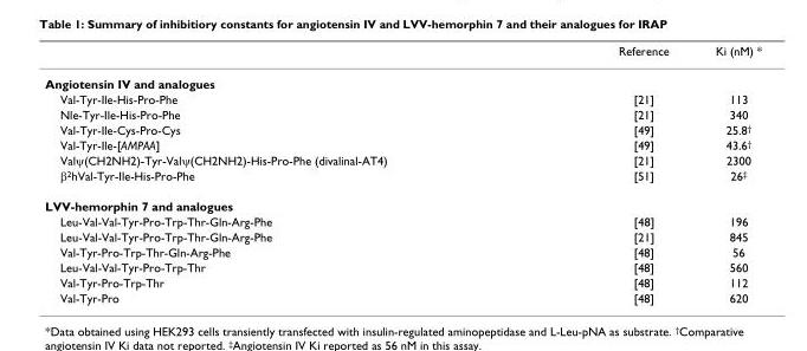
<table><thead><tr><td></td><td>Reference</td><td>Ki (nM) *</td></tr></thead><tbody><tr><td colspan="3">Angiotensin IV and analogues</td></tr><tr><td>Val-Tyr-Ile-His-Pro-Phe</td><td>[21]</td><td>113</td></tr><tr><td>Nle-Tyr-Ile-His-Pro-Phe</td><td>[21]</td><td>340</td></tr><tr><td>Val-Tyr-Ile-Cys-Pro-Cys</td><td>[49]</td><td>25.8<sup>†</sup></td></tr><tr><td>Val-Tyr-Ile-[AMPAA]</td><td>[49]</td><td>43.6<sup>†</sup></td></tr><tr><td>Valψ(CH2NH2)-Tyr-Valψ(CH2NH2)-His-Pro-Phe (divalinal-AT4)</td><td>[21]</td><td>2300</td></tr><tr><td>β<sup>2</sup>hVal-Tyr-Ile-His-Pro-Phe</td><td>[51]</td><td>26<sup>‡</sup></td></tr><tr><td colspan="3">LVV-hemorphin 7 and analogues</td></tr><tr><td>Leu-Val-Val-Tyr-Pro-Trp-Thr-Gln-Arg-Phe</td><td>[48]</td><td>196</td></tr><tr><td>Leu-Val-Val-Tyr-Pro-Trp-Thr-Gln-Arg-Phe</td><td>[21]</td><td>845</td></tr><tr><td>Val-Tyr-Pro-Trp-Thr-Gln-Arg-Phe</td><td>[48]</td><td>56</td></tr><tr><td>Leu-Val-Val-Tyr-Pro-Trp-Thr</td><td>[48]</td><td>560</td></tr><tr><td>Val-Tyr-Pro-Trp-Thr</td><td>[48]</td><td>112</td></tr><tr><td>Val-Tyr-Pro</td><td>[48]</td><td>620</td></tr></tbody></table>